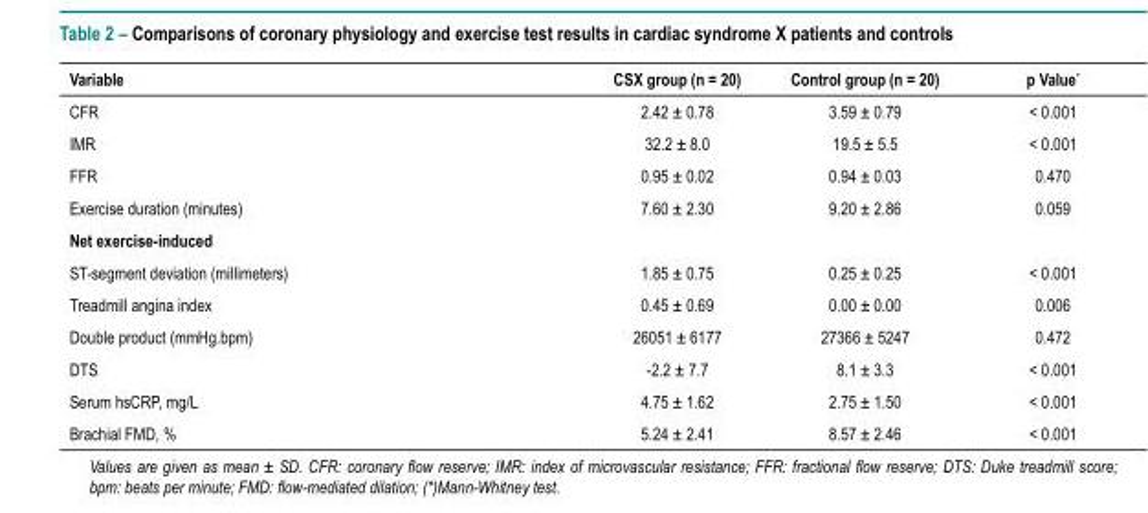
<table><thead><tr><td>Variable</td><td>CSX group (n = 20)</td><td>Control group (n = 20)</td><td>p Value*</td></tr></thead><tbody><tr><td>CFR</td><td>2.42 ± 0.78</td><td>3.59 ± 0.79</td><td>&lt; 0.001</td></tr><tr><td>IMR</td><td>32.2 ± 8.0</td><td>19.5 ± 5.5</td><td>&lt; 0.001</td></tr><tr><td>FFR</td><td>0.95 ± 0.02</td><td>0.94 ± 0.03</td><td>0.470</td></tr><tr><td>Exercise duration (minutes)</td><td>7.60 ± 2.30</td><td>9.20 ± 2.86</td><td>0.059</td></tr><tr><td colspan="4">Net exercise-induced</td></tr><tr><td>ST-segment deviation (millimeters)</td><td>1.85 ± 0.75</td><td>0.25 ± 0.25</td><td>&lt; 0.001</td></tr><tr><td>Treadmill angina index</td><td>0.45 ± 0.69</td><td>0.00 ± 0.00</td><td>0.006</td></tr><tr><td>Double product (mmHg.bpm)</td><td>26051 ± 6177</td><td>27366 ± 5247</td><td>0.472</td></tr><tr><td>DTS</td><td>-2.2 ± 7.7</td><td>8.1 ± 3.3</td><td>&lt; 0.001</td></tr><tr><td>Serum hsCRP, mg/L</td><td>4.75 ± 1.62</td><td>2.75 ± 1.50</td><td>&lt; 0.001</td></tr><tr><td>Brachial FMD, %</td><td>5.24 ± 2.41</td><td>8.57 ± 2.46</td><td>&lt; 0.001</td></tr></tbody></table>